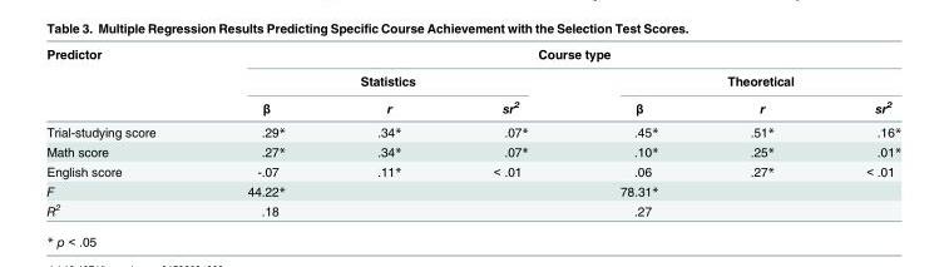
<table><thead><tr><td rowspan="3">Predictor</td><td colspan="6">Course type</td></tr><tr><td colspan="3">Statistics</td><td colspan="3">Theoretical</td></tr><tr><td>β</td><td>r</td><td>sr<sup>2</sup></td><td>β</td><td>r</td><td>sr<sup>2</sup></td></tr></thead><tbody><tr><td>Trial-studying score</td><td>.29*</td><td>.34*</td><td>.07*</td><td>.45*</td><td>.51*</td><td>.16*</td></tr><tr><td>Math score</td><td>.27*</td><td>.34*</td><td>.07*</td><td>.10*</td><td>.25*</td><td>.01*</td></tr><tr><td>English score</td><td>-.07</td><td>.11*</td><td>&lt; .01</td><td>.06</td><td>.27*</td><td>&lt; .01</td></tr><tr><td>F</td><td>44.22*</td><td></td><td></td><td>78.31*</td><td></td><td></td></tr><tr><td>R<sup>2</sup></td><td>.18</td><td></td><td></td><td>.27</td><td></td><td></td></tr></tbody></table>